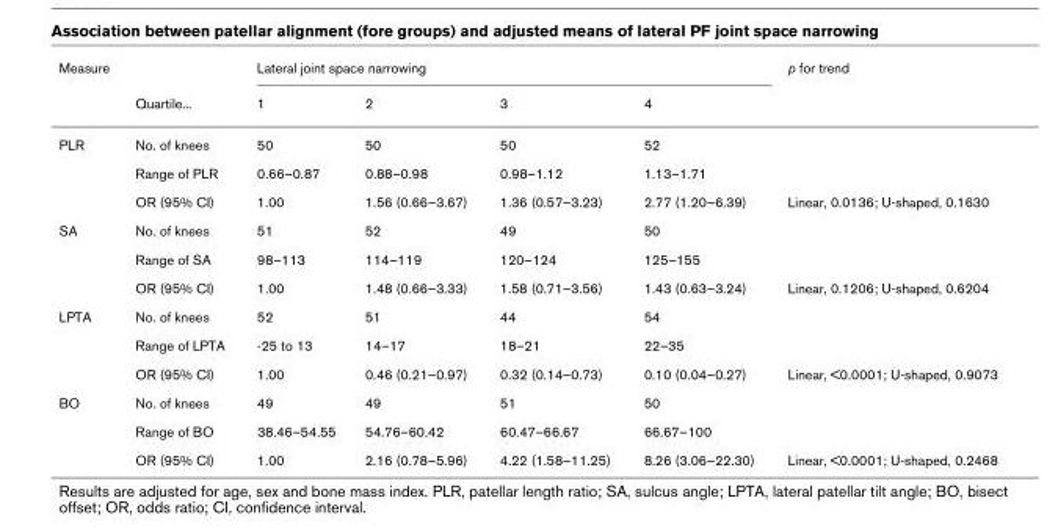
<table><thead><tr><td rowspan="2">Measure</td><td rowspan="2">Quartile...</td><td colspan="4">Lateral joint space narrowing</td><td rowspan="2">p for trend</td></tr><tr><td>1</td><td>2</td><td>3</td><td>4</td></tr></thead><tbody><tr><td rowspan="3">PLR</td><td>No. of knees</td><td>50</td><td>50</td><td>50</td><td>52</td><td></td></tr><tr><td>Range of PLR</td><td>0.66–0.87</td><td>0.88–0.98</td><td>0.98–1.12</td><td>1.13–1.71</td><td></td></tr><tr><td>OR (95% CI)</td><td>1.00</td><td>1.56 (0.66–3.67)</td><td>1.36 (0.57–3.23)</td><td>2.77 (1.20–6.39)</td><td>Linear, 0.0136; U-shaped, 0.1630</td></tr><tr><td rowspan="3">SA</td><td>No. of knees</td><td>51</td><td>52</td><td>49</td><td>50</td><td></td></tr><tr><td>Range of SA</td><td>98–113</td><td>114–119</td><td>120–124</td><td>125–155</td><td></td></tr><tr><td>OR (95% CI)</td><td>1.00</td><td>1.48 (0.66–3.33)</td><td>1.58 (0.71–3.56)</td><td>1.43 (0.63–3.24)</td><td>Linear, 0.1206; U-shaped, 0.6204</td></tr><tr><td rowspan="3">LPTA</td><td>No. of knees</td><td>52</td><td>51</td><td>44</td><td>54</td><td></td></tr><tr><td>Range of LPTA</td><td>-25 to 13</td><td>14–17</td><td>18–21</td><td>22–35</td><td></td></tr><tr><td>OR (95% CI)</td><td>1.00</td><td>0.46 (0.21–0.97)</td><td>0.32 (0.14–0.73)</td><td>0.10 (0.04–0.27)</td><td>Linear, &lt;0.0001; U-shaped, 0.9073</td></tr><tr><td rowspan="3">BO</td><td>No. of knees</td><td>49</td><td>49</td><td>51</td><td>50</td><td></td></tr><tr><td>Range of BO</td><td>38.46–54.55</td><td>54.76–60.42</td><td>60.47–66.67</td><td>66.67–100</td><td></td></tr><tr><td>OR (95% CI)</td><td>1.00</td><td>2.16 (0.78–5.96)</td><td>4.22 (1.58–11.25)</td><td>8.26 (3.06–22.30)</td><td>Linear, &lt;0.0001; U-shaped, 0.2468</td></tr></tbody></table>